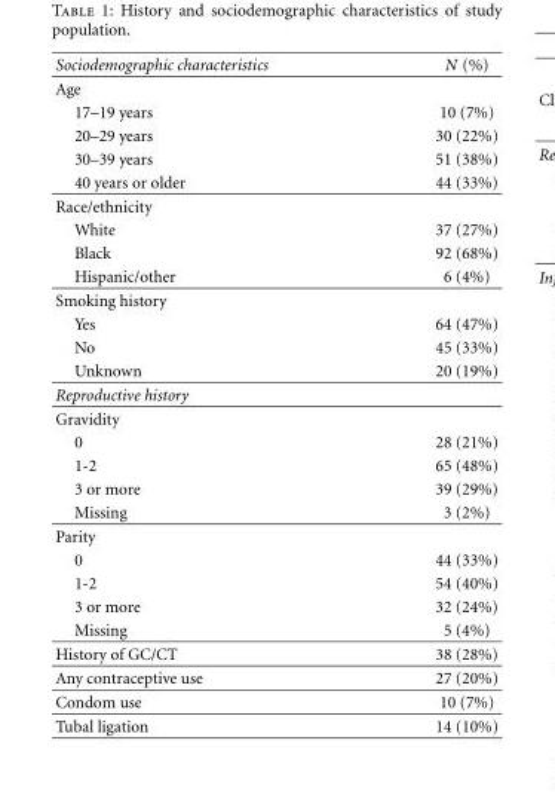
<table><thead><tr><td>Sociodemographic characteristics</td><td>N (%)</td></tr></thead><tbody><tr><td colspan="2">Age</td></tr><tr><td>17–19 years</td><td>10 (7%)</td></tr><tr><td>20–29 years</td><td>30 (22%)</td></tr><tr><td>30–39 years</td><td>51 (38%)</td></tr><tr><td>40 years or older</td><td>44 (33%)</td></tr><tr><td colspan="2">Race/ethnicity</td></tr><tr><td>White</td><td>37 (27%)</td></tr><tr><td>Black</td><td>92 (68%)</td></tr><tr><td>Hispanic/other</td><td>6 (4%)</td></tr><tr><td colspan="2">Smoking history</td></tr><tr><td>Yes</td><td>64 (47%)</td></tr><tr><td>No</td><td>45 (33%)</td></tr><tr><td>Unknown</td><td>20 (19%)</td></tr><tr><td colspan="2">Reproductive history</td></tr><tr><td colspan="2">Gravidity</td></tr><tr><td>0</td><td>28 (21%)</td></tr><tr><td>1-2</td><td>65 (48%)</td></tr><tr><td>3 or more</td><td>39 (29%)</td></tr><tr><td>Missing</td><td>3 (2%)</td></tr><tr><td colspan="2">Parity</td></tr><tr><td>0</td><td>44 (33%)</td></tr><tr><td>1-2</td><td>54 (40%)</td></tr><tr><td>3 or more</td><td>32 (24%)</td></tr><tr><td>Missing</td><td>5 (4%)</td></tr><tr><td>History of GC/CT</td><td>38 (28%)</td></tr><tr><td>Any contraceptive use</td><td>27 (20%)</td></tr><tr><td>Condom use</td><td>10 (7%)</td></tr><tr><td>Tubal ligation</td><td>14 (10%)</td></tr></tbody></table>